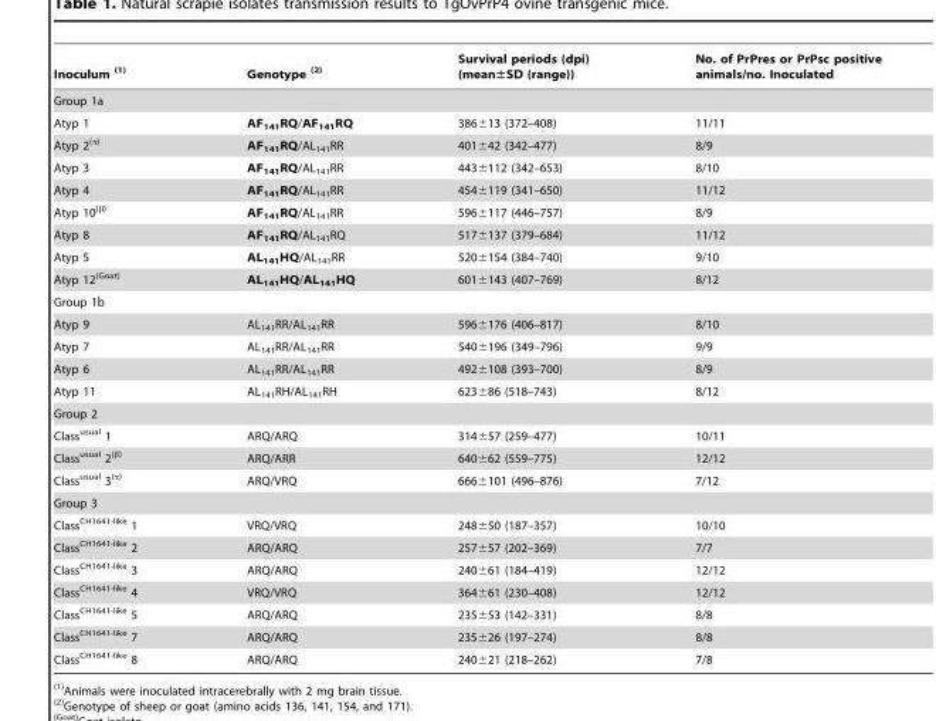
<table><thead><tr><td>Inoculum (1)</td><td>Genotype (2)</td><td>Survival periods (dpi) (mean±SD (range))</td><td>No. of PrPres or PrPsc positive animals/no. Inoculated</td></tr></thead><tbody><tr><td colspan="4">Group 1a</td></tr><tr><td>Atyp 1</td><td>AF<sub>141</sub>RQ/AF<sub>141</sub>RQ</td><td>386±13 (372–408)</td><td>11/11</td></tr><tr><td>Atyp 2(α)</td><td>AF<sub>141</sub>RQ/AL<sub>141</sub>RR</td><td>401±42 (342–477)</td><td>8/9</td></tr><tr><td>Atyp 3</td><td>AF<sub>141</sub>RQ/AL<sub>141</sub>RR</td><td>443±112 (342–653)</td><td>8/10</td></tr><tr><td>Atyp 4</td><td>AF<sub>141</sub>RQ/AL<sub>141</sub>RR</td><td>454±119 (341–650)</td><td>11/12</td></tr><tr><td>Atyp 10(β)</td><td>AF<sub>141</sub>RQ/AL<sub>141</sub>RR</td><td>596±117 (446–757)</td><td>8/9</td></tr><tr><td>Atyp 8</td><td>AF<sub>141</sub>RQ/AL<sub>141</sub>RQ</td><td>517±137 (379–684)</td><td>11/12</td></tr><tr><td>Atyp 5</td><td>AL<sub>141</sub>HQ/AL<sub>141</sub>RR</td><td>520±154 (384–740)</td><td>9/10</td></tr><tr><td>Atyp 12(Goat)</td><td>AL<sub>141</sub>HQ/AL<sub>141</sub>HQ</td><td>601±143 (407–769)</td><td>8/12</td></tr><tr><td colspan="4">Group 1b</td></tr><tr><td>Atyp 9</td><td>AL<sub>141</sub>RR/AL<sub>141</sub>RR</td><td>596±176 (406–817)</td><td>8/10</td></tr><tr><td>Atyp 7</td><td>AL<sub>141</sub>RR/AL<sub>141</sub>RR</td><td>540±196 (349–796)</td><td>9/9</td></tr><tr><td>Atyp 6</td><td>AL<sub>141</sub>RR/AL<sub>141</sub>RR</td><td>492±108 (393–700)</td><td>8/9</td></tr><tr><td>Atyp 11</td><td>AL<sub>141</sub>RH/AL<sub>141</sub>RH</td><td>623±86 (518–743)</td><td>8/12</td></tr><tr><td colspan="4">Group 2</td></tr><tr><td>Class<sup>usual</sup> 1</td><td>ARQ/ARQ</td><td>314±57 (259–477)</td><td>10/11</td></tr><tr><td>Class<sup>usual</sup> 2(β)</td><td>ARQ/ARR</td><td>640±62 (559–775)</td><td>12/12</td></tr><tr><td>Class<sup>usual</sup> 3(α)</td><td>ARQ/VRQ</td><td>666±101 (496–876)</td><td>7/12</td></tr><tr><td colspan="4">Group 3</td></tr><tr><td>Class<sup>CH1641-like</sup> 1</td><td>VRQ/VRQ</td><td>248±50 (187–357)</td><td>10/10</td></tr><tr><td>Class<sup>CH1641-like</sup> 2</td><td>ARQ/ARQ</td><td>257±57 (202–369)</td><td>7/7</td></tr><tr><td>Class<sup>CH1641-like</sup> 3</td><td>ARQ/ARQ</td><td>240±61 (184–419)</td><td>12/12</td></tr><tr><td>Class<sup>CH1641-like</sup> 4</td><td>VRQ/VRQ</td><td>364±61 (230–408)</td><td>12/12</td></tr><tr><td>Class<sup>CH1641-like</sup> 5</td><td>ARQ/ARQ</td><td>235±53 (142–331)</td><td>8/8</td></tr><tr><td>Class<sup>CH1641-like</sup> 7</td><td>ARQ/ARQ</td><td>235±26 (197–274)</td><td>8/8</td></tr><tr><td>Class<sup>CH1641-like</sup> 8</td><td>ARQ/ARQ</td><td>240±21 (218–262)</td><td>7/8</td></tr></tbody></table>